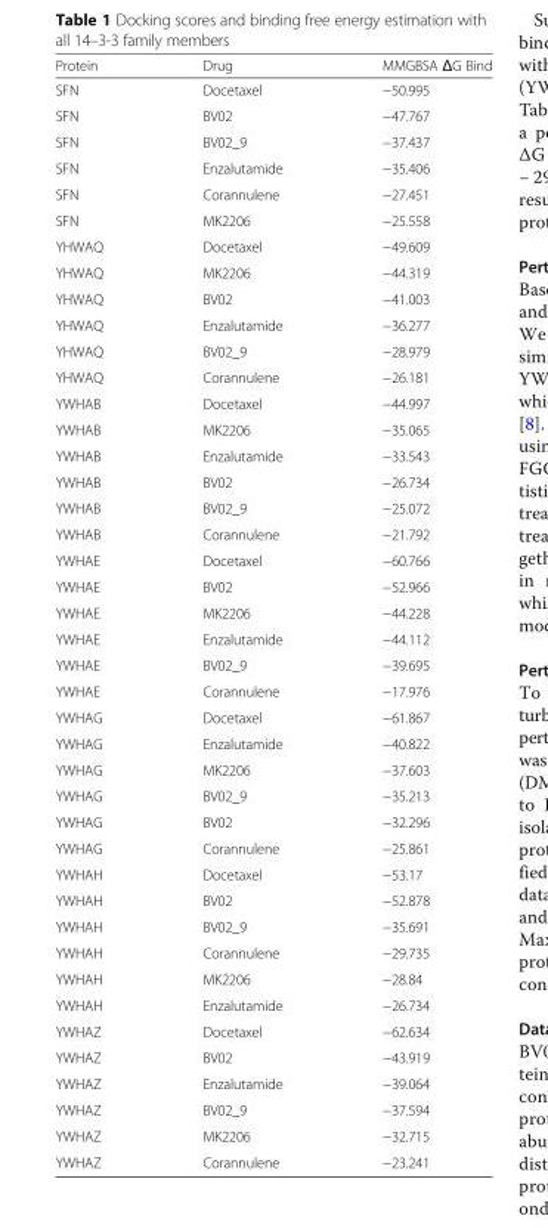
<table><thead><tr><td>Protein</td><td>Drug</td><td>MMGBSA ΔG Bind</td></tr></thead><tbody><tr><td>SFN</td><td>Docetaxel</td><td>−50.995</td></tr><tr><td>SFN</td><td>BV02</td><td>−47.767</td></tr><tr><td>SFN</td><td>BV02_9</td><td>−37.437</td></tr><tr><td>SFN</td><td>Enzalutamide</td><td>−35.406</td></tr><tr><td>SFN</td><td>Corannulene</td><td>−27.451</td></tr><tr><td>SFN</td><td>MK2206</td><td>−25.558</td></tr><tr><td>YHWAQ</td><td>Docetaxel</td><td>−49.609</td></tr><tr><td>YHWAQ</td><td>MK2206</td><td>−44.319</td></tr><tr><td>YHWAQ</td><td>BV02</td><td>−41.003</td></tr><tr><td>YHWAQ</td><td>Enzalutamide</td><td>−36.277</td></tr><tr><td>YHWAQ</td><td>BV02_9</td><td>−28.979</td></tr><tr><td>YHWAQ</td><td>Corannulene</td><td>−26.181</td></tr><tr><td>YWHAB</td><td>Docetaxel</td><td>−44.997</td></tr><tr><td>YWHAB</td><td>MK2206</td><td>−35.065</td></tr><tr><td>YWHAB</td><td>Enzalutamide</td><td>−33.543</td></tr><tr><td>YWHAB</td><td>BV02</td><td>−26.734</td></tr><tr><td>YWHAB</td><td>BV02_9</td><td>−25.072</td></tr><tr><td>YWHAB</td><td>Corannulene</td><td>−21.792</td></tr><tr><td>YWHAE</td><td>Docetaxel</td><td>−60.766</td></tr><tr><td>YWHAE</td><td>BV02</td><td>−52.966</td></tr><tr><td>YWHAE</td><td>MK2206</td><td>−44.228</td></tr><tr><td>YWHAE</td><td>Enzalutamide</td><td>−44.112</td></tr><tr><td>YWHAE</td><td>BV02_9</td><td>−39.695</td></tr><tr><td>YWHAE</td><td>Corannulene</td><td>−17.976</td></tr><tr><td>YWHAG</td><td>Docetaxel</td><td>−61.867</td></tr><tr><td>YWHAG</td><td>Enzalutamide</td><td>−40.822</td></tr><tr><td>YWHAG</td><td>MK2206</td><td>−37.603</td></tr><tr><td>YWHAG</td><td>BV02_9</td><td>−35.213</td></tr><tr><td>YWHAG</td><td>BV02</td><td>−32.296</td></tr><tr><td>YWHAG</td><td>Corannulene</td><td>−25.861</td></tr><tr><td>YWHAH</td><td>Docetaxel</td><td>−53.17</td></tr><tr><td>YWHAH</td><td>BV02</td><td>−52.878</td></tr><tr><td>YWHAH</td><td>BV02_9</td><td>−35.691</td></tr><tr><td>YWHAH</td><td>Corannulene</td><td>−29.735</td></tr><tr><td>YWHAH</td><td>MK2206</td><td>−28.84</td></tr><tr><td>YWHAH</td><td>Enzalutamide</td><td>−26.734</td></tr><tr><td>YWHAZ</td><td>Docetaxel</td><td>−62.634</td></tr><tr><td>YWHAZ</td><td>BV02</td><td>−43.919</td></tr><tr><td>YWHAZ</td><td>Enzalutamide</td><td>−39.064</td></tr><tr><td>YWHAZ</td><td>BV02_9</td><td>−37.594</td></tr><tr><td>YWHAZ</td><td>MK2206</td><td>−32.715</td></tr><tr><td>YWHAZ</td><td>Corannulene</td><td>−23.241</td></tr></tbody></table>